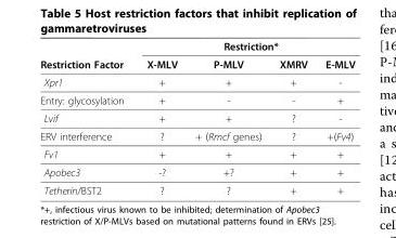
<table><thead><tr><td rowspan="2">Restriction Factor</td><td colspan="4">Restriction*</td></tr><tr><td>X-MLV</td><td>P-MLV</td><td>XMRV</td><td>E-MLV</td></tr></thead><tbody><tr><td>Xpr1</td><td>+</td><td>+</td><td>+</td><td>-</td></tr><tr><td>Entry: glycosylation</td><td>+</td><td>-</td><td>-</td><td>+</td></tr><tr><td>Lvif</td><td>+</td><td>+</td><td>?</td><td>-</td></tr><tr><td>ERV interference</td><td>?</td><td>+ (Rmcf genes)</td><td>?</td><td>+(Fv4)</td></tr><tr><td>Fv1</td><td>+</td><td>+</td><td>+</td><td>+</td></tr><tr><td>Apobec3</td><td>-?</td><td>+?</td><td>+</td><td>+</td></tr><tr><td>Tetherin/BST2</td><td>?</td><td>?</td><td>+</td><td>+</td></tr></tbody></table>